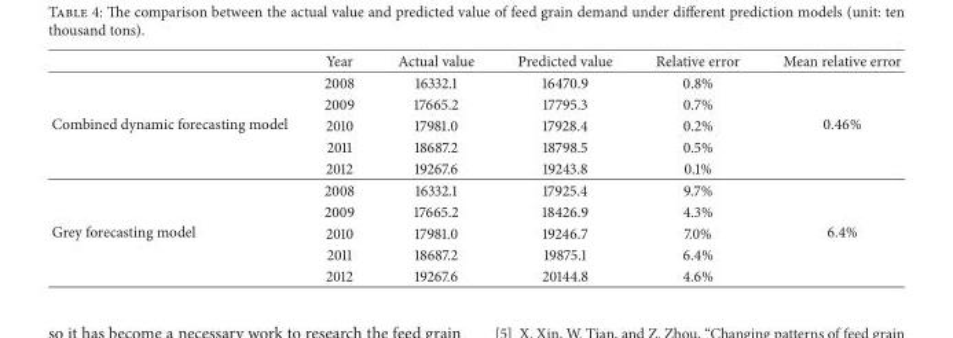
<table><thead><tr><td></td><td>Year</td><td>Actual value</td><td>Predicted value</td><td>Relative error</td><td>Mean relative error</td></tr></thead><tbody><tr><td rowspan="5">Combined dynamic forecasting model</td><td>2008</td><td>16332.1</td><td>16470.9</td><td>0.8%</td><td rowspan="5">0.46%</td></tr><tr><td>2009</td><td>17665.2</td><td>17795.3</td><td>0.7%</td></tr><tr><td>2010</td><td>17981.0</td><td>17928.4</td><td>0.2%</td></tr><tr><td>2011</td><td>18687.2</td><td>18798.5</td><td>0.5%</td></tr><tr><td>2012</td><td>19267.6</td><td>19243.8</td><td>0.1%</td></tr><tr><td rowspan="5">Grey forecasting model</td><td>2008</td><td>16332.1</td><td>17925.4</td><td>9.7%</td><td rowspan="5">6.4%</td></tr><tr><td>2009</td><td>17665.2</td><td>18426.9</td><td>4.3%</td></tr><tr><td>2010</td><td>17981.0</td><td>19246.7</td><td>7.0%</td></tr><tr><td>2011</td><td>18687.2</td><td>19875.1</td><td>6.4%</td></tr><tr><td>2012</td><td>19267.6</td><td>20144.8</td><td>4.6%</td></tr></tbody></table>